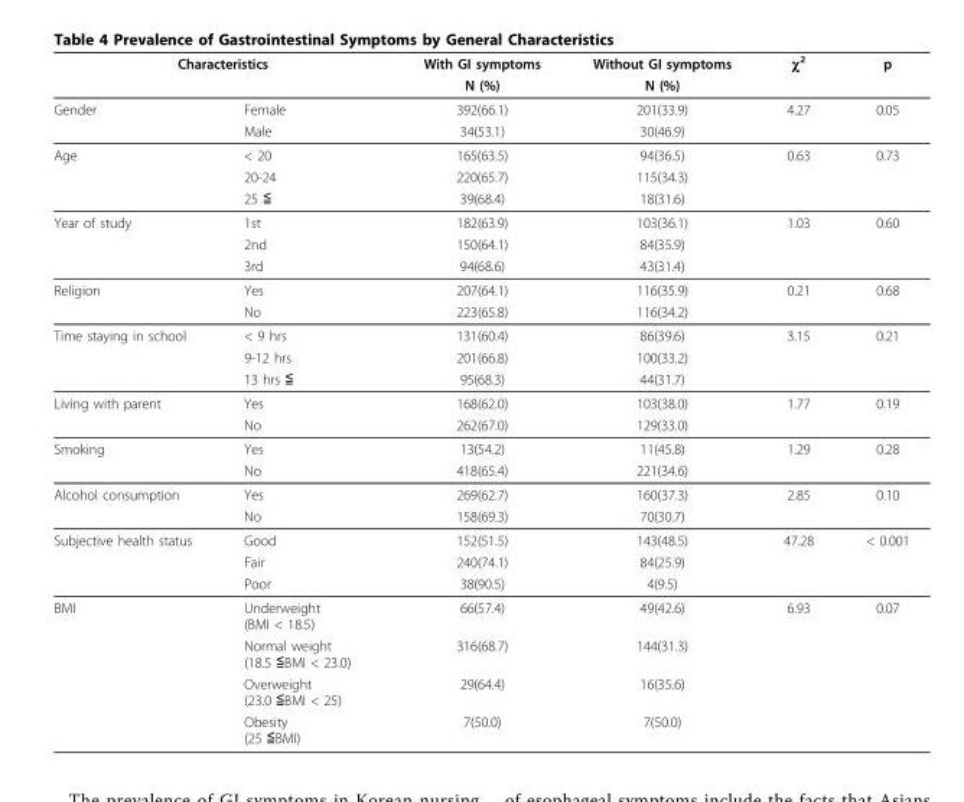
<table><tbody><tr><td colspan="2">Characteristics</td><td>With GI symptoms</td><td>Without GI symptoms</td><td>χ<sup>2</sup></td><td>p</td></tr><tr><td></td><td></td><td>N (%)</td><td>N (%)</td><td></td><td></td></tr><tr><td rowspan="2">Gender</td><td>Female</td><td>392(66.1)</td><td>201(33.9)</td><td>4.27</td><td>0.05</td></tr><tr><td>Male</td><td>34(53.1)</td><td>30(46.9)</td><td></td><td></td></tr><tr><td rowspan="3">Age</td><td>&lt; 20</td><td>165(63.5)</td><td>94(36.5)</td><td>0.63</td><td>0.73</td></tr><tr><td>20-24</td><td>220(65.7)</td><td>115(34.3)</td><td></td><td></td></tr><tr><td>25 ≦</td><td>39(68.4)</td><td>18(31.6)</td><td></td><td></td></tr><tr><td rowspan="3">Year of study</td><td>1st</td><td>182(63.9)</td><td>103(36.1)</td><td>1.03</td><td>0.60</td></tr><tr><td>2nd</td><td>150(64.1)</td><td>84(35.9)</td><td></td><td></td></tr><tr><td>3rd</td><td>94(68.6)</td><td>43(31.4)</td><td></td><td></td></tr><tr><td rowspan="2">Religion</td><td>Yes</td><td>207(64.1)</td><td>116(35.9)</td><td>0.21</td><td>0.68</td></tr><tr><td>No</td><td>223(65.8)</td><td>116(34.2)</td><td></td><td></td></tr><tr><td rowspan="3">Time staying in school</td><td>&lt; 9 hrs</td><td>131(60.4)</td><td>86(39.6)</td><td>3.15</td><td>0.21</td></tr><tr><td>9-12 hrs</td><td>201(66.8)</td><td>100(33.2)</td><td></td><td></td></tr><tr><td>13 hrs ≦</td><td>95(68.3)</td><td>44(31.7)</td><td></td><td></td></tr><tr><td rowspan="2">Living with parent</td><td>Yes</td><td>168(62.0)</td><td>103(38.0)</td><td>1.77</td><td>0.19</td></tr><tr><td>No</td><td>262(67.0)</td><td>129(33.0)</td><td></td><td></td></tr><tr><td rowspan="2">Smoking</td><td>Yes</td><td>13(54.2)</td><td>11(45.8)</td><td>1.29</td><td>0.28</td></tr><tr><td>No</td><td>418(65.4)</td><td>221(34.6)</td><td></td><td></td></tr><tr><td rowspan="2">Alcohol consumption</td><td>Yes</td><td>269(62.7)</td><td>160(37.3)</td><td>2.85</td><td>0.10</td></tr><tr><td>No</td><td>158(69.3)</td><td>70(30.7)</td><td></td><td></td></tr><tr><td rowspan="3">Subjective health status</td><td>Good</td><td>152(51.5)</td><td>143(48.5)</td><td>47.28</td><td>&lt; 0.001</td></tr><tr><td>Fair</td><td>240(74.1)</td><td>84(25.9)</td><td></td><td></td></tr><tr><td>Poor</td><td>38(90.5)</td><td>4(9.5)</td><td></td><td></td></tr><tr><td rowspan="4">BMI</td><td>Underweight (BMI &lt; 18.5)</td><td>66(57.4)</td><td>49(42.6)</td><td>6.93</td><td>0.07</td></tr><tr><td>Normal weight (18.5 ≦BMI &lt; 23.0)</td><td>316(68.7)</td><td>144(31.3)</td><td></td><td></td></tr><tr><td>Overweight (23.0 ≦BMI &lt; 25)</td><td>29(64.4)</td><td>16(35.6)</td><td></td><td></td></tr><tr><td>Obesity (25 ≦BMI)</td><td>7(50.0)</td><td>7(50.0)</td><td></td><td></td></tr></tbody></table>